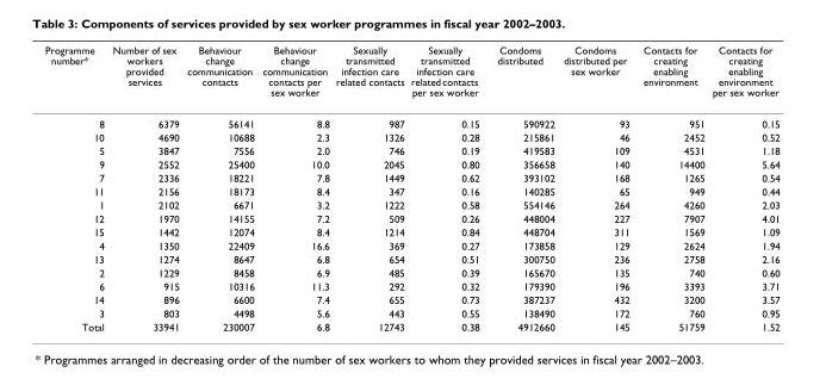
<table><thead><tr><td>Programme number*</td><td>Number of sex workers provided services</td><td>Behaviour change communication contacts</td><td>Behaviour change communication contacts per sex worker</td><td>Sexually transmitted infection care related contacts</td><td>Sexually transmitted infection care related contacts per sex worker</td><td>Condoms distributed</td><td>Condoms distributed per sex worker</td><td>Contacts for creating enabling environment</td><td>Contacts for creating enabling environment per sex worker</td></tr></thead><tbody><tr><td>8</td><td>6379</td><td>56141</td><td>8.8</td><td>987</td><td>0.15</td><td>590922</td><td>93</td><td>951</td><td>0.15</td></tr><tr><td>10</td><td>4690</td><td>10688</td><td>2.3</td><td>1326</td><td>0.28</td><td>215861</td><td>46</td><td>2452</td><td>0.52</td></tr><tr><td>5</td><td>3847</td><td>7556</td><td>2.0</td><td>746</td><td>0.19</td><td>419583</td><td>109</td><td>4531</td><td>1.18</td></tr><tr><td>9</td><td>2552</td><td>25400</td><td>10.0</td><td>2045</td><td>0.80</td><td>356658</td><td>140</td><td>14400</td><td>5.64</td></tr><tr><td>7</td><td>2336</td><td>18221</td><td>7.8</td><td>1449</td><td>0.62</td><td>393102</td><td>168</td><td>1265</td><td>0.54</td></tr><tr><td>11</td><td>2156</td><td>18173</td><td>8.4</td><td>347</td><td>0.16</td><td>140285</td><td>65</td><td>949</td><td>0.44</td></tr><tr><td>1</td><td>2102</td><td>6671</td><td>3.2</td><td>1222</td><td>0.58</td><td>554146</td><td>264</td><td>4260</td><td>2.03</td></tr><tr><td>12</td><td>1970</td><td>14155</td><td>7.2</td><td>509</td><td>0.26</td><td>448004</td><td>227</td><td>7907</td><td>4.01</td></tr><tr><td>15</td><td>1442</td><td>12074</td><td>8.4</td><td>1214</td><td>0.84</td><td>448704</td><td>311</td><td>1569</td><td>1.09</td></tr><tr><td>4</td><td>1350</td><td>22409</td><td>16.6</td><td>369</td><td>0.27</td><td>173858</td><td>129</td><td>2624</td><td>1.94</td></tr><tr><td>13</td><td>1274</td><td>8647</td><td>6.8</td><td>654</td><td>0.51</td><td>300750</td><td>236</td><td>2758</td><td>2.16</td></tr><tr><td>2</td><td>1229</td><td>8458</td><td>6.9</td><td>485</td><td>0.39</td><td>165670</td><td>135</td><td>740</td><td>0.60</td></tr><tr><td>6</td><td>915</td><td>10316</td><td>11.3</td><td>292</td><td>0.32</td><td>179390</td><td>196</td><td>3393</td><td>3.71</td></tr><tr><td>14</td><td>896</td><td>6600</td><td>7.4</td><td>655</td><td>0.73</td><td>387237</td><td>432</td><td>3200</td><td>3.57</td></tr><tr><td>3</td><td>803</td><td>4498</td><td>5.6</td><td>443</td><td>0.55</td><td>138490</td><td>172</td><td>760</td><td>0.95</td></tr><tr><td>Total</td><td>33941</td><td>230007</td><td>6.8</td><td>12743</td><td>0.38</td><td>4912660</td><td>145</td><td>51759</td><td>1.52</td></tr></tbody></table>